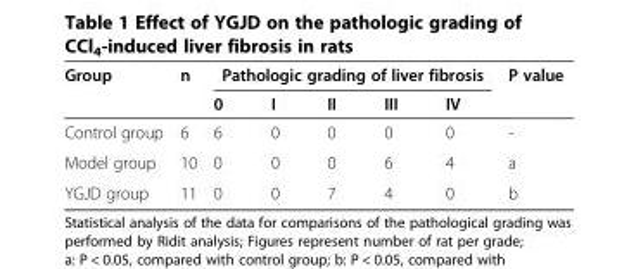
<table><thead><tr><td rowspan="2">Group</td><td rowspan="2">n</td><td colspan="5">Pathologic grading of liver fibrosis</td><td rowspan="2">P value</td></tr><tr><td>0</td><td>I</td><td>II</td><td>III</td><td>IV</td></tr></thead><tbody><tr><td>Control group</td><td>6</td><td>6</td><td>0</td><td>0</td><td>0</td><td>0</td><td>-</td></tr><tr><td>Model group</td><td>10</td><td>0</td><td>0</td><td>0</td><td>6</td><td>4</td><td>a</td></tr><tr><td>YGJD group</td><td>11</td><td>0</td><td>0</td><td>7</td><td>4</td><td>0</td><td>b</td></tr></tbody></table>